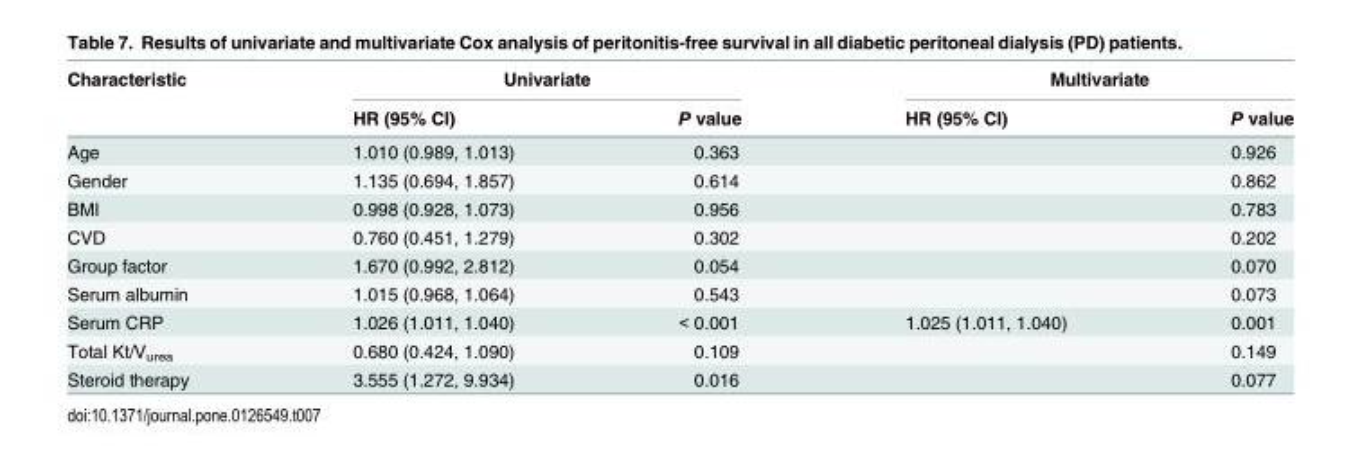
<table><thead><tr><td rowspan="2">Characteristic</td><td colspan="2">Univariate</td><td colspan="2">Multivariate</td></tr><tr><td>HR (95% CI)</td><td>P value</td><td>HR (95% CI)</td><td>P value</td></tr></thead><tbody><tr><td>Age</td><td>1.010 (0.989, 1.013)</td><td>0.363</td><td></td><td>0.926</td></tr><tr><td>Gender</td><td>1.135 (0.694, 1.857)</td><td>0.614</td><td></td><td>0.862</td></tr><tr><td>BMI</td><td>0.998 (0.928, 1.073)</td><td>0.956</td><td></td><td>0.783</td></tr><tr><td>CVD</td><td>0.760 (0.451, 1.279)</td><td>0.302</td><td></td><td>0.202</td></tr><tr><td>Group factor</td><td>1.670 (0.992, 2.812)</td><td>0.054</td><td></td><td>0.070</td></tr><tr><td>Serum albumin</td><td>1.015 (0.968, 1.064)</td><td>0.543</td><td></td><td>0.073</td></tr><tr><td>Serum CRP</td><td>1.026 (1.011, 1.040)</td><td>&lt; 0.001</td><td>1.025 (1.011, 1.040)</td><td>0.001</td></tr><tr><td>Total Kt/V<sub>urea</sub></td><td>0.680 (0.424, 1.090)</td><td>0.109</td><td></td><td>0.149</td></tr><tr><td>Steroid therapy</td><td>3.555 (1.272, 9.934)</td><td>0.016</td><td></td><td>0.077</td></tr></tbody></table>